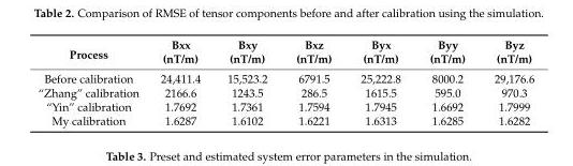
<table><thead><tr><td>Process</td><td>Bxx (nT/m)</td><td>Bxy (nT/m)</td><td>Bxz (nT/m)</td><td>Byx (nT/m)</td><td>Byy (nT/m)</td><td>Byz (nT/m)</td></tr></thead><tbody><tr><td>Before calibration</td><td>24,411.4</td><td>15,523.2</td><td>6791.5</td><td>25,222.8</td><td>8000.2</td><td>29,176.6</td></tr><tr><td>“Zhang” calibration</td><td>2166.6</td><td>1243.5</td><td>286.5</td><td>1615.5</td><td>595.0</td><td>970.3</td></tr><tr><td>“Yin” calibration</td><td>1.7692</td><td>1.7361</td><td>1.7594</td><td>1.7945</td><td>1.6692</td><td>1.7999</td></tr><tr><td>My calibration</td><td>1.6287</td><td>1.6102</td><td>1.6221</td><td>1.6313</td><td>1.6285</td><td>1.6282</td></tr></tbody></table>